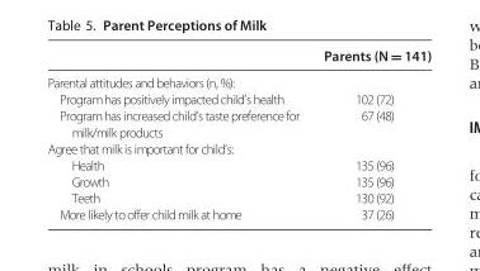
<table><thead><tr><td></td><td>Parents (N = 141)</td></tr></thead><tbody><tr><td colspan="2">Parental attitudes andbehaviors (n, %):</td></tr><tr><td>Programhas positivelyimpactedchild’s health</td><td>102(72)</td></tr><tr><td>Programhas increasedchild’s tastepreferencefor milk/milkproducts</td><td>67(48)</td></tr><tr><td colspan="2">Agreethat milkis important for child’s:</td></tr><tr><td>Health</td><td>135(96)</td></tr><tr><td>Growth</td><td>135(96)</td></tr><tr><td>Teeth</td><td>130(92)</td></tr><tr><td>Morelikelytooffer childmilkat home</td><td>37(26)</td></tr></tbody></table>